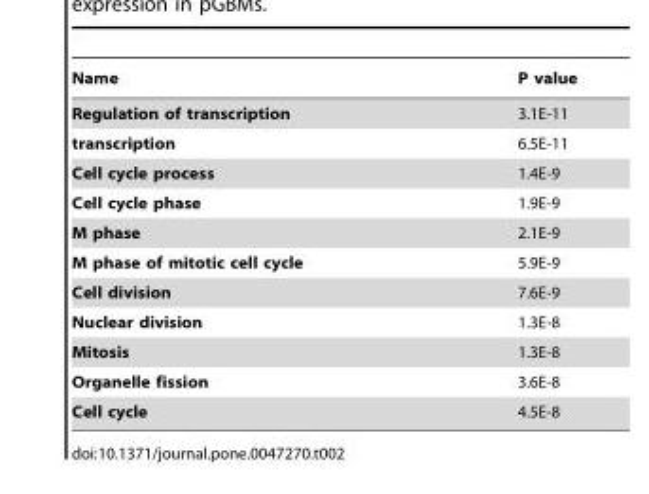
<table><thead><tr><td>Name</td><td>P value</td></tr></thead><tbody><tr><td>Regulation of transcription</td><td>3.1E-11</td></tr><tr><td>transcription</td><td>6.5E-11</td></tr><tr><td>Cell cycle process</td><td>1.4E-9</td></tr><tr><td>Cell cycle phase</td><td>1.9E-9</td></tr><tr><td>M phase</td><td>2.1E-9</td></tr><tr><td>M phase of mitotic cell cycle</td><td>5.9E-9</td></tr><tr><td>Cell division</td><td>7.6E-9</td></tr><tr><td>Nuclear division</td><td>1.3E-8</td></tr><tr><td>Mitosis</td><td>1.3E-8</td></tr><tr><td>Organelle fission</td><td>3.6E-8</td></tr><tr><td>Cell cycle</td><td>4.5E-8</td></tr></tbody></table>